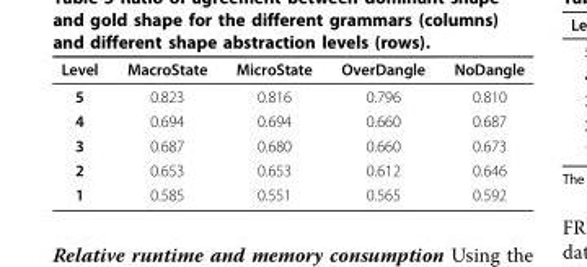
<table><thead><tr><td>Level</td><td>MacroState</td><td>MicroState</td><td>OverDangle</td><td>NoDangle</td></tr></thead><tbody><tr><td>5</td><td>0.823</td><td>0.816</td><td>0.796</td><td>0.810</td></tr><tr><td>4</td><td>0.694</td><td>0.694</td><td>0.660</td><td>0.687</td></tr><tr><td>3</td><td>0.687</td><td>0.680</td><td>0.660</td><td>0.673</td></tr><tr><td>2</td><td>0.653</td><td>0.653</td><td>0.612</td><td>0.646</td></tr><tr><td>1</td><td>0.585</td><td>0.551</td><td>0.565</td><td>0.592</td></tr></tbody></table>